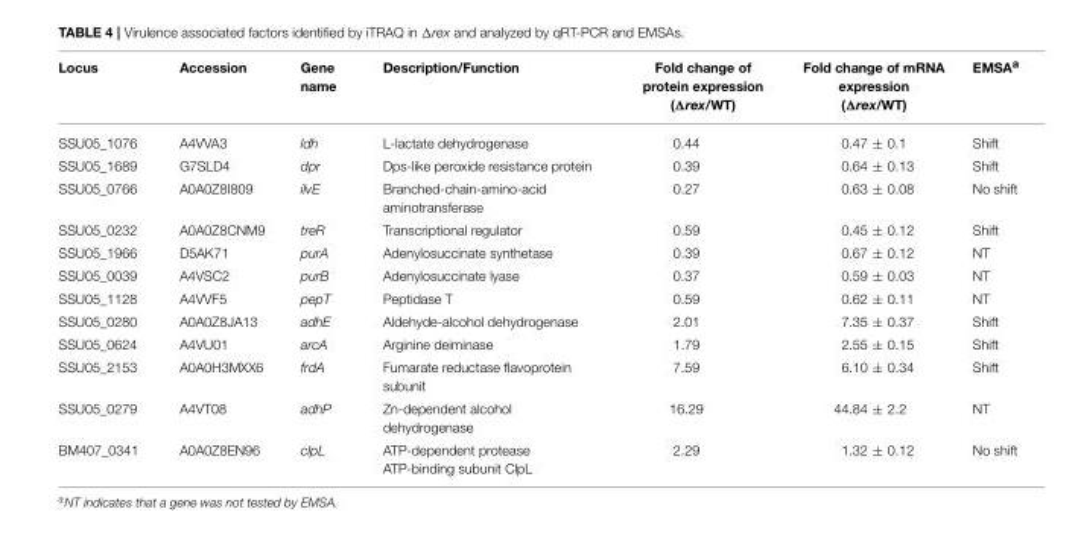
<table><thead><tr><td>Locus</td><td>Accession</td><td>Gene name</td><td>Description/Function</td><td>Fold change of protein expression (Δrex/WT)</td><td>Fold change of mRNA expression (Δrex/WT)</td><td>EMSA<sup>a</sup></td></tr></thead><tbody><tr><td>SSU05_1076</td><td>A4VVA3</td><td>ldh</td><td>L-lactate dehydrogenase</td><td>0.44</td><td>0.47 ± 0.1</td><td>Shift</td></tr><tr><td>SSU05_1689</td><td>G7SLD4</td><td>dpr</td><td>Dps-like peroxide resistance protein</td><td>0.39</td><td>0.64 ± 0.13</td><td>Shift</td></tr><tr><td>SSU05_0766</td><td>A0A0Z8I809</td><td>ilvE</td><td>Branched-chain-amino-acid aminotransferase</td><td>0.27</td><td>0.63 ± 0.08</td><td>No shift</td></tr><tr><td>SSU05_0232</td><td>A0A0Z8CNM9</td><td>treR</td><td>Transcriptional regulator</td><td>0.59</td><td>0.45 ± 0.12</td><td>Shift</td></tr><tr><td>SSU05_1966</td><td>D5AK71</td><td>purA</td><td>Adenylosuccinate synthetase</td><td>0.39</td><td>0.67 ± 0.12</td><td>NT</td></tr><tr><td>SSU05_0039</td><td>A4VSC2</td><td>purB</td><td>Adenylosuccinate lyase</td><td>0.37</td><td>0.59 ± 0.03</td><td>NT</td></tr><tr><td>SSU05_1128</td><td>A4VVF5</td><td>pepT</td><td>Peptidase T</td><td>0.59</td><td>0.62 ± 0.11</td><td>NT</td></tr><tr><td>SSU05_0280</td><td>A0A0Z8JA13</td><td>adhE</td><td>Aldehyde-alcohol dehydrogenase</td><td>2.01</td><td>7.35 ± 0.37</td><td>Shift</td></tr><tr><td>SSU05_0624</td><td>A4VU01</td><td>arcA</td><td>Arginine deiminase</td><td>1.79</td><td>2.55 ± 0.15</td><td>Shift</td></tr><tr><td>SSU05_2153</td><td>A0A0H3MXX6</td><td>frdA</td><td>Fumarate reductase flavoprotein subunit</td><td>7.59</td><td>6.10 ± 0.34</td><td>Shift</td></tr><tr><td>SSU05_0279</td><td>A4VT08</td><td>adhP</td><td>Zn-dependent alcohol dehydrogenase</td><td>16.29</td><td>44.84 ± 2.2</td><td>NT</td></tr><tr><td>BM407_0341</td><td>A0A0Z8EN96</td><td>clpL</td><td>ATP-dependent protease ATP-binding subunit ClpL</td><td>2.29</td><td>1.32 ± 0.12</td><td>No shift</td></tr></tbody></table>